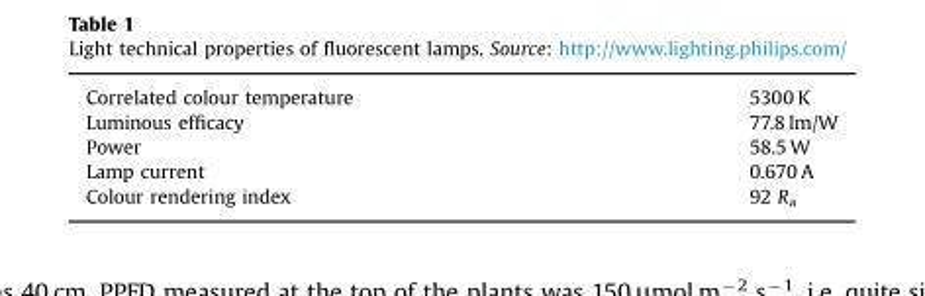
<table><tbody><tr><td>Correlated colour temperature</td><td>5300 K</td></tr><tr><td>Luminous efficacy</td><td>77.8 lm/W</td></tr><tr><td>Power</td><td>58.5 W</td></tr><tr><td>Lamp current</td><td>0.670 A</td></tr><tr><td>Colour rendering index</td><td>92 R<sub>a</sub></td></tr></tbody></table>